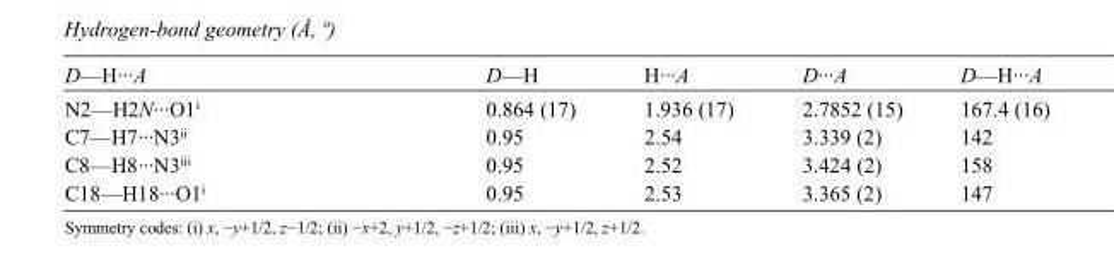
<table><tbody><tr><td>D—H···A</td><td>D—H</td><td>H···A</td><td>D···A</td><td>D—H···A</td></tr><tr><td>N2—H2N···O1<sup>i</sup></td><td>0.864 (17)</td><td>1.936 (17)</td><td>2.7852 (15)</td><td>167.4 (16)</td></tr><tr><td>C7—H7···N3<sup>ii</sup></td><td>0.95</td><td>2.54</td><td>3.339 (2)</td><td>142</td></tr><tr><td>C8—H8···N3<sup>iii</sup></td><td>0.95</td><td>2.52</td><td>3.424 (2)</td><td>158</td></tr><tr><td>C18—H18···O1<sup>i</sup></td><td>0.95</td><td>2.53</td><td>3.365 (2)</td><td>147</td></tr></tbody></table>